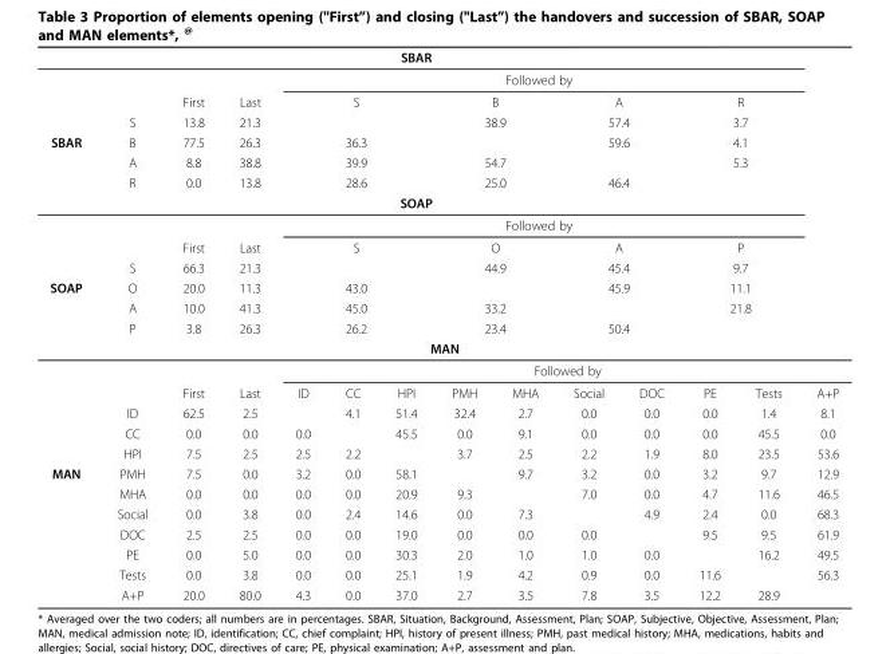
<table><thead><tr><td colspan="13">SBAR</td><td rowspan="14"></td></tr><tr><td rowspan="6">SBAR</td><td rowspan="6">S B A R</td><td rowspan="6">First 13.8 77.5 8.8 0.0</td><td rowspan="6">Last 21.3 26.3 38.8 13.8</td><td colspan="9">Followed by</td></tr><tr><td colspan="3">S</td><td rowspan="2" colspan="2">B 38.9</td><td rowspan="3" colspan="2">A 57.4 59.6</td><td rowspan="4" colspan="2">R 3.7 4.1 5.3</td></tr><tr><td></td><td></td><td></td></tr><tr><td rowspan="3" colspan="3">36.3 39.9 28.6</td><td></td><td></td></tr><tr><td rowspan="2" colspan="2">54.7 25.0</td><td></td><td></td></tr><tr><td colspan="2">46.4</td><td></td><td></td></tr><tr><td colspan="13">SOAP</td></tr><tr><td rowspan="6">SOAP</td><td rowspan="6">S O A P</td><td rowspan="6">First 66.3 20.0 10.0 3.8</td><td rowspan="6">Last 21.3 11.3 41.3 26.3</td><td colspan="9">Followed by</td></tr><tr><td colspan="3">S</td><td rowspan="2" colspan="2">O 44.9</td><td rowspan="3" colspan="2">A 45.4 45.9</td><td rowspan="4" colspan="2">P 9.7 11.1 21.8</td></tr><tr><td></td><td></td><td></td></tr><tr><td rowspan="3" colspan="3">43.0 45.0 26.2</td><td></td><td></td></tr><tr><td rowspan="2" colspan="2">33.2 23.4</td><td></td><td></td></tr><tr><td colspan="2">50.4</td><td></td><td></td></tr><tr><td colspan="14">MAN</td></tr></thead><tbody><tr><td></td><td></td><td></td><td></td><td colspan="10">Followed by</td></tr><tr><td></td><td></td><td>First</td><td>Last</td><td>ID</td><td>CC</td><td>HPI</td><td>PMH</td><td>MHA</td><td>Social</td><td>DOC</td><td>PE</td><td>Tests</td><td>A+P</td></tr><tr><td></td><td>ID</td><td>62.5</td><td>2.5</td><td></td><td>4.1</td><td>51.4</td><td>32.4</td><td>2.7</td><td>0.0</td><td>0.0</td><td>0.0</td><td>1.4</td><td>8.1</td></tr><tr><td></td><td>CC</td><td>0.0</td><td>0.0</td><td>0.0</td><td></td><td>45.5</td><td>0.0</td><td>9.1</td><td>0.0</td><td>0.0</td><td>0.0</td><td>45.5</td><td>0.0</td></tr><tr><td></td><td>HPI</td><td>7.5</td><td>2.5</td><td>2.5</td><td>2.2</td><td></td><td>3.7</td><td>2.5</td><td>2.2</td><td>1.9</td><td>8.0</td><td>23.5</td><td>53.6</td></tr><tr><td rowspan="7">MAN</td><td>PMH</td><td>7.5</td><td>0.0</td><td>3.2</td><td>0.0</td><td>58.1</td><td></td><td>9.7</td><td>3.2</td><td>0.0</td><td>3.2</td><td>9.7</td><td>12.9</td></tr><tr><td>MHA</td><td>0.0</td><td>0.0</td><td>0.0</td><td>0.0</td><td>20.9</td><td>9.3</td><td></td><td>7.0</td><td>0.0</td><td>4.7</td><td>11.6</td><td>46.5</td></tr><tr><td>Social</td><td>0.0</td><td>3.8</td><td>0.0</td><td>2.4</td><td>14.6</td><td>0.0</td><td>7.3</td><td></td><td>4.9</td><td>2.4</td><td>0.0</td><td>68.3</td></tr><tr><td>DOC</td><td>2.5</td><td>2.5</td><td>0.0</td><td>0.0</td><td>19.0</td><td>0.0</td><td>0.0</td><td>0.0</td><td></td><td>9.5</td><td>9.5</td><td>61.9</td></tr><tr><td>PE</td><td>0.0</td><td>5.0</td><td>0.0</td><td>0.0</td><td>30.3</td><td>2.0</td><td>1.0</td><td>1.0</td><td>0.0</td><td></td><td>16.2</td><td>49.5</td></tr><tr><td>Tests</td><td>0.0</td><td>3.8</td><td>0.0</td><td>0.0</td><td>25.1</td><td>1.9</td><td>4.2</td><td>0.9</td><td>0.0</td><td>11.6</td><td></td><td>56.3</td></tr><tr><td>A+P</td><td>20.0</td><td>80.0</td><td>4.3</td><td>0.0</td><td>37.0</td><td>2.7</td><td>3.5</td><td>7.8</td><td>3.5</td><td>12.2</td><td>28.9</td><td></td></tr></tbody></table>